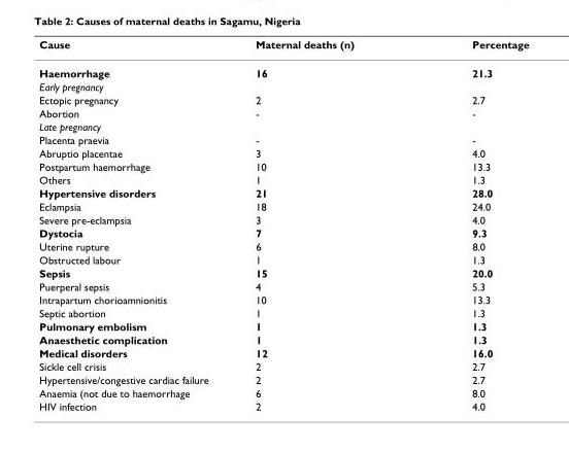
<table><thead><tr><td>Cause</td><td>Maternal deaths (n)</td><td>Percentage</td></tr></thead><tbody><tr><td>Haemorrhage</td><td>16</td><td>21.3</td></tr><tr><td colspan="3">Early pregnancy</td></tr><tr><td>Ectopic pregnancy</td><td>2</td><td>2.7</td></tr><tr><td>Abortion</td><td>-</td><td>-</td></tr><tr><td colspan="3">Late pregnancy</td></tr><tr><td>Placenta praevia</td><td>-</td><td>-</td></tr><tr><td>Abruptio placentae</td><td>3</td><td>4.0</td></tr><tr><td>Postpartum haemorrhage</td><td>10</td><td>13.3</td></tr><tr><td>Others</td><td>1</td><td>1.3</td></tr><tr><td>Hypertensive disorders</td><td>21</td><td>28.0</td></tr><tr><td>Eclampsia</td><td>18</td><td>24.0</td></tr><tr><td>Severe pre-eclampsia</td><td>3</td><td>4.0</td></tr><tr><td>Dystocia</td><td>7</td><td>9.3</td></tr><tr><td>Uterine rupture</td><td>6</td><td>8.0</td></tr><tr><td>Obstructed labour</td><td>1</td><td>1.3</td></tr><tr><td>Sepsis</td><td>15</td><td>20.0</td></tr><tr><td>Puerperal sepsis</td><td>4</td><td>5.3</td></tr><tr><td>Intrapartum chorioamnionitis</td><td>10</td><td>13.3</td></tr><tr><td>Septic abortion</td><td>1</td><td>1.3</td></tr><tr><td>Pulmonary embolism</td><td>1</td><td>1.3</td></tr><tr><td>Anaesthetic complication</td><td>1</td><td>1.3</td></tr><tr><td>Medical disorders</td><td>12</td><td>16.0</td></tr><tr><td>Sickle cell crisis</td><td>2</td><td>2.7</td></tr><tr><td>Hypertensive/congestive cardiac failure</td><td>2</td><td>2.7</td></tr><tr><td>Anaemia (not due to haemorrhage</td><td>6</td><td>8.0</td></tr><tr><td>HIV infection</td><td>2</td><td>4.0</td></tr></tbody></table>